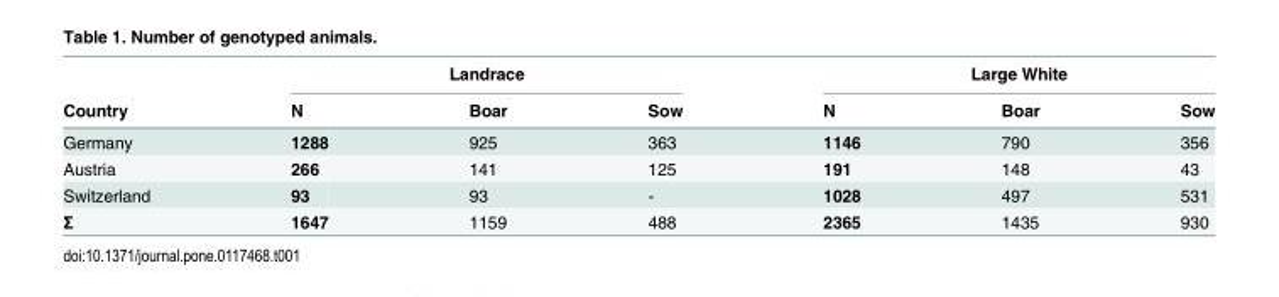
<table><thead><tr><td rowspan="2">Country</td><td colspan="3">Landrace</td><td colspan="3">Large White</td></tr><tr><td>N</td><td>Boar</td><td>Sow</td><td>N</td><td>Boar</td><td>Sow</td></tr></thead><tbody><tr><td>Germany</td><td>1288</td><td>925</td><td>363</td><td>1146</td><td>790</td><td>356</td></tr><tr><td>Austria</td><td>266</td><td>141</td><td>125</td><td>191</td><td>148</td><td>43</td></tr><tr><td>Switzerland</td><td>93</td><td>93</td><td>-</td><td>1028</td><td>497</td><td>531</td></tr><tr><td>Σ</td><td>1647</td><td>1159</td><td>488</td><td>2365</td><td>1435</td><td>930</td></tr></tbody></table>